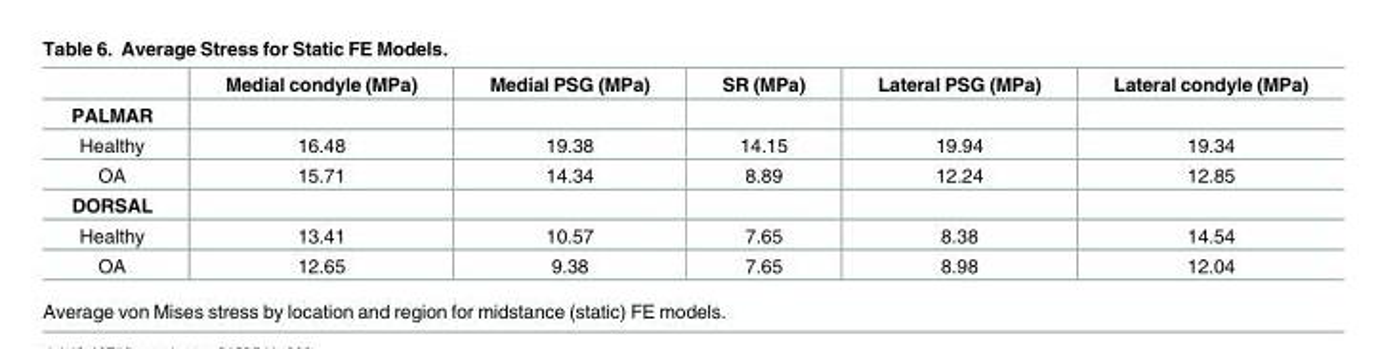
<table><thead><tr><td></td><td>Medial condyle (MPa)</td><td>Medial PSG (MPa)</td><td>SR (MPa)</td><td>Lateral PSG (MPa)</td><td>Lateral condyle (MPa)</td></tr></thead><tbody><tr><td colspan="6">PALMAR</td></tr><tr><td>Healthy</td><td>16.48</td><td>19.38</td><td>14.15</td><td>19.94</td><td>19.34</td></tr><tr><td>OA</td><td>15.71</td><td>14.34</td><td>8.89</td><td>12.24</td><td>12.85</td></tr><tr><td colspan="6">DORSAL</td></tr><tr><td>Healthy</td><td>13.41</td><td>10.57</td><td>7.65</td><td>8.38</td><td>14.54</td></tr><tr><td>OA</td><td>12.65</td><td>9.38</td><td>7.65</td><td>8.98</td><td>12.04</td></tr></tbody></table>